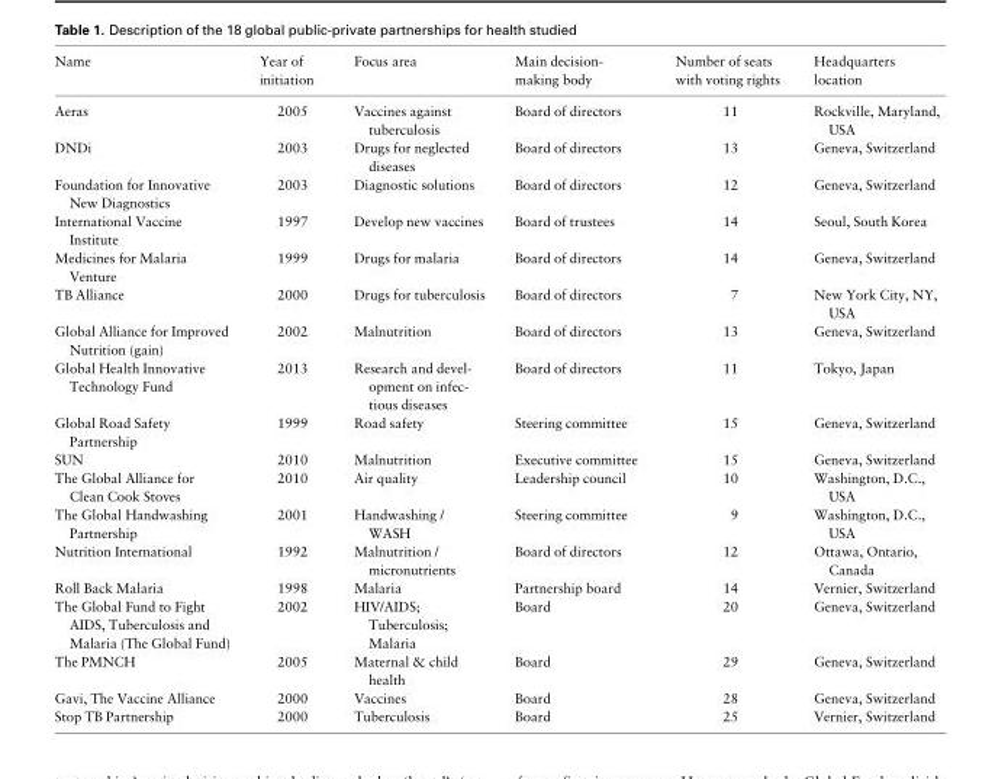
<table><thead><tr><td>Name</td><td>Year of initiation</td><td>Focus area</td><td>Main decision- making body</td><td>Number of seats with voting rights</td><td>Headquarters location</td></tr></thead><tbody><tr><td>Aeras</td><td>2005</td><td>Vaccines against tuberculosis</td><td>Board of directors</td><td>11</td><td>Rockville, Maryland, USA</td></tr><tr><td>DNDi</td><td>2003</td><td>Drugs for neglected diseases</td><td>Board of directors</td><td>13</td><td>Geneva, Switzerland</td></tr><tr><td>Foundation for Innovative New Diagnostics</td><td>2003</td><td>Diagnostic solutions</td><td>Board of directors</td><td>12</td><td>Geneva, Switzerland</td></tr><tr><td>International Vaccine Institute</td><td>1997</td><td>Develop new vaccines</td><td>Board of trustees</td><td>14</td><td>Seoul, South Korea</td></tr><tr><td>Medicines for Malaria Venture</td><td>1999</td><td>Drugs for malaria</td><td>Board of directors</td><td>14</td><td>Geneva, Switzerland</td></tr><tr><td>TB Alliance</td><td>2000</td><td>Drugs for tuberculosis</td><td>Board of directors</td><td>7</td><td>New York City, NY, USA</td></tr><tr><td>Global Alliance for Improved Nutrition (gain)</td><td>2002</td><td>Malnutrition</td><td>Board of directors</td><td>13</td><td>Geneva, Switzerland</td></tr><tr><td>Global Health Innovative Technology Fund</td><td>2013</td><td>Research and devel- opment on infec- tious diseases</td><td>Board of directors</td><td>11</td><td>Tokyo, Japan</td></tr><tr><td>Global Road Safety Partnership</td><td>1999</td><td>Road safety</td><td>Steering committee</td><td>15</td><td>Geneva, Switzerland</td></tr><tr><td>SUN</td><td>2010</td><td>Malnutrition</td><td>Executive committee</td><td>15</td><td>Geneva, Switzerland</td></tr><tr><td>The Global Alliance for Clean Cook Stoves</td><td>2010</td><td>Air quality</td><td>Leadership council</td><td>10</td><td>Washington, D.C., USA</td></tr><tr><td>The Global Handwashing Partnership</td><td>2001</td><td>Handwashing / WASH</td><td>Steering committee</td><td>9</td><td>Washington, D.C., USA</td></tr><tr><td>Nutrition International</td><td>1992</td><td>Malnutrition / micronutrients</td><td>Board of directors</td><td>12</td><td>Ottawa, Ontario, Canada</td></tr><tr><td>Roll Back Malaria</td><td>1998</td><td>Malaria</td><td>Partnership board</td><td>14</td><td>Vernier, Switzerland</td></tr><tr><td>The Global Fund to Fight AIDS, Tuberculosis and Malaria (The Global Fund)</td><td>2002</td><td>HIV/AIDS; Tuberculosis; Malaria</td><td>Board</td><td>20</td><td>Geneva, Switzerland</td></tr><tr><td>The PMNCH</td><td>2005</td><td>Maternal &amp; child health</td><td>Board</td><td>29</td><td>Geneva, Switzerland</td></tr><tr><td>Gavi, The Vaccine Alliance</td><td>2000</td><td>Vaccines</td><td>Board</td><td>28</td><td>Geneva, Switzerland</td></tr><tr><td>Stop TB Partnership</td><td>2000</td><td>Tuberculosis</td><td>Board</td><td>25</td><td>Vernier, Switzerland</td></tr></tbody></table>